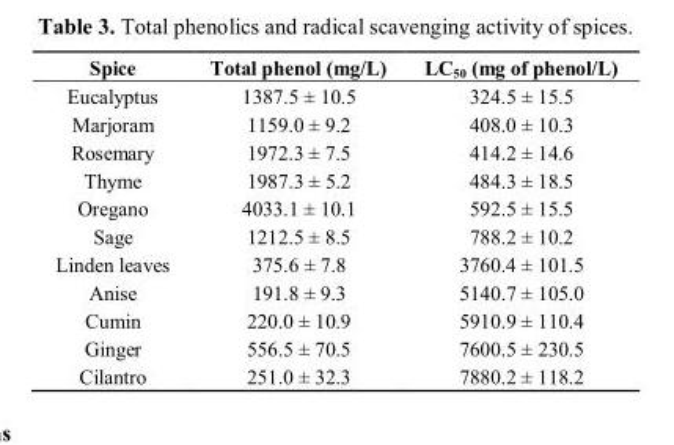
<table><thead><tr><td>Spice</td><td>Total phenol (mg/L)</td><td>LC<sub>50</sub> (mg of phenol/L)</td></tr></thead><tbody><tr><td>Eucalyptus</td><td>1387.5 ± 10.5</td><td>324.5 ± 15.5</td></tr><tr><td>Marjoram</td><td>1159.0 ± 9.2</td><td>408.0 ± 10.3</td></tr><tr><td>Rosemary</td><td>1972.3 ± 7.5</td><td>414.2 ± 14.6</td></tr><tr><td>Thyme</td><td>1987.3 ± 5.2</td><td>484.3 ± 18.5</td></tr><tr><td>Oregano</td><td>4033.1 ± 10.1</td><td>592.5 ± 15.5</td></tr><tr><td>Sage</td><td>1212.5 ± 8.5</td><td>788.2 ± 10.2</td></tr><tr><td>Linden leaves</td><td>375.6 ± 7.8</td><td>3760.4 ± 101.5</td></tr><tr><td>Anise</td><td>191.8 ± 9.3</td><td>5140.7 ± 105.0</td></tr><tr><td>Cumin</td><td>220.0 ± 10.9</td><td>5910.9 ± 110.4</td></tr><tr><td>Ginger</td><td>556.5 ± 70.5</td><td>7600.5 ± 230.5</td></tr><tr><td>Cilantro</td><td>251.0 ± 32.3</td><td>7880.2 ± 118.2</td></tr></tbody></table>